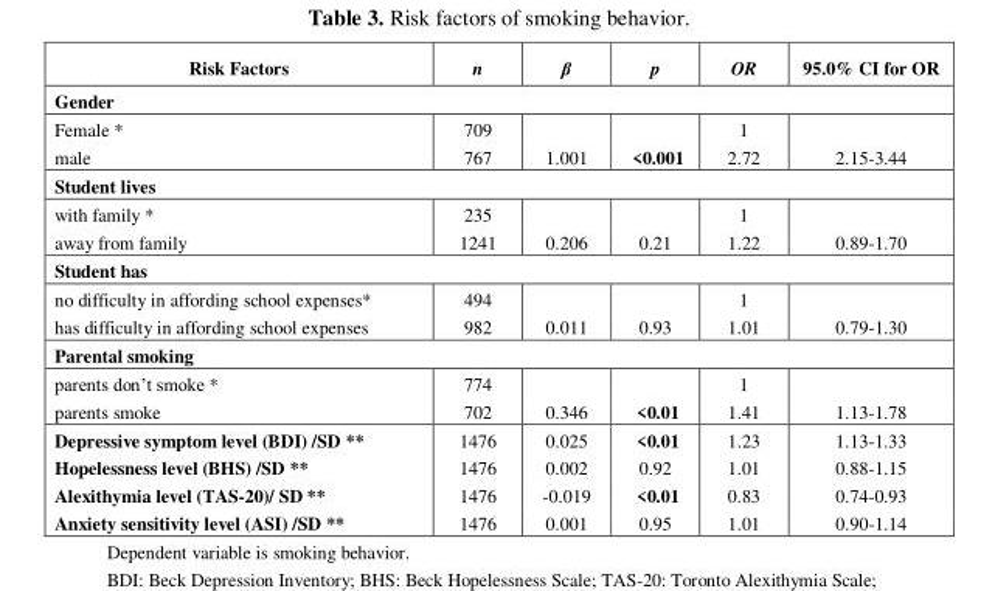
<table><thead><tr><td>Risk Factors</td><td>n</td><td>β</td><td>p</td><td>OR</td><td>95.0% CI for OR</td></tr></thead><tbody><tr><td colspan="6">Gender</td></tr><tr><td>Female *</td><td>709</td><td></td><td></td><td>1</td><td></td></tr><tr><td>male</td><td>767</td><td>1.001</td><td>&lt;0.001</td><td>2.72</td><td>2.15-3.44</td></tr><tr><td colspan="6">Student lives</td></tr><tr><td>with family *</td><td>235</td><td></td><td></td><td>1</td><td></td></tr><tr><td>away from family</td><td>1241</td><td>0.206</td><td>0.21</td><td>1.22</td><td>0.89-1.70</td></tr><tr><td colspan="6">Student has</td></tr><tr><td>no difficulty in affording school expenses*</td><td>494</td><td></td><td></td><td>1</td><td></td></tr><tr><td>has difficulty in affording school expenses</td><td>982</td><td>0.011</td><td>0.93</td><td>1.01</td><td>0.79-1.30</td></tr><tr><td colspan="6">Parental smoking</td></tr><tr><td>parents don’t smoke *</td><td>774</td><td></td><td></td><td>1</td><td></td></tr><tr><td>parents smoke</td><td>702</td><td>0.346</td><td>&lt;0.01</td><td>1.41</td><td>1.13-1.78</td></tr><tr><td>Depressive symptom level (BDI) /SD **</td><td>1476</td><td>0.025</td><td>&lt;0.01</td><td>1.23</td><td>1.13-1.33</td></tr><tr><td>Hopelessness level (BHS) /SD **</td><td>1476</td><td>0.002</td><td>0.92</td><td>1.01</td><td>0.88-1.15</td></tr><tr><td>Alexithymia level (TAS-20)/ SD **</td><td>1476</td><td>-0.019</td><td>&lt;0.01</td><td>0.83</td><td>0.74-0.93</td></tr><tr><td>Anxiety sensitivity level (ASI) /SD **</td><td>1476</td><td>0.001</td><td>0.95</td><td>1.01</td><td>0.90-1.14</td></tr></tbody></table>